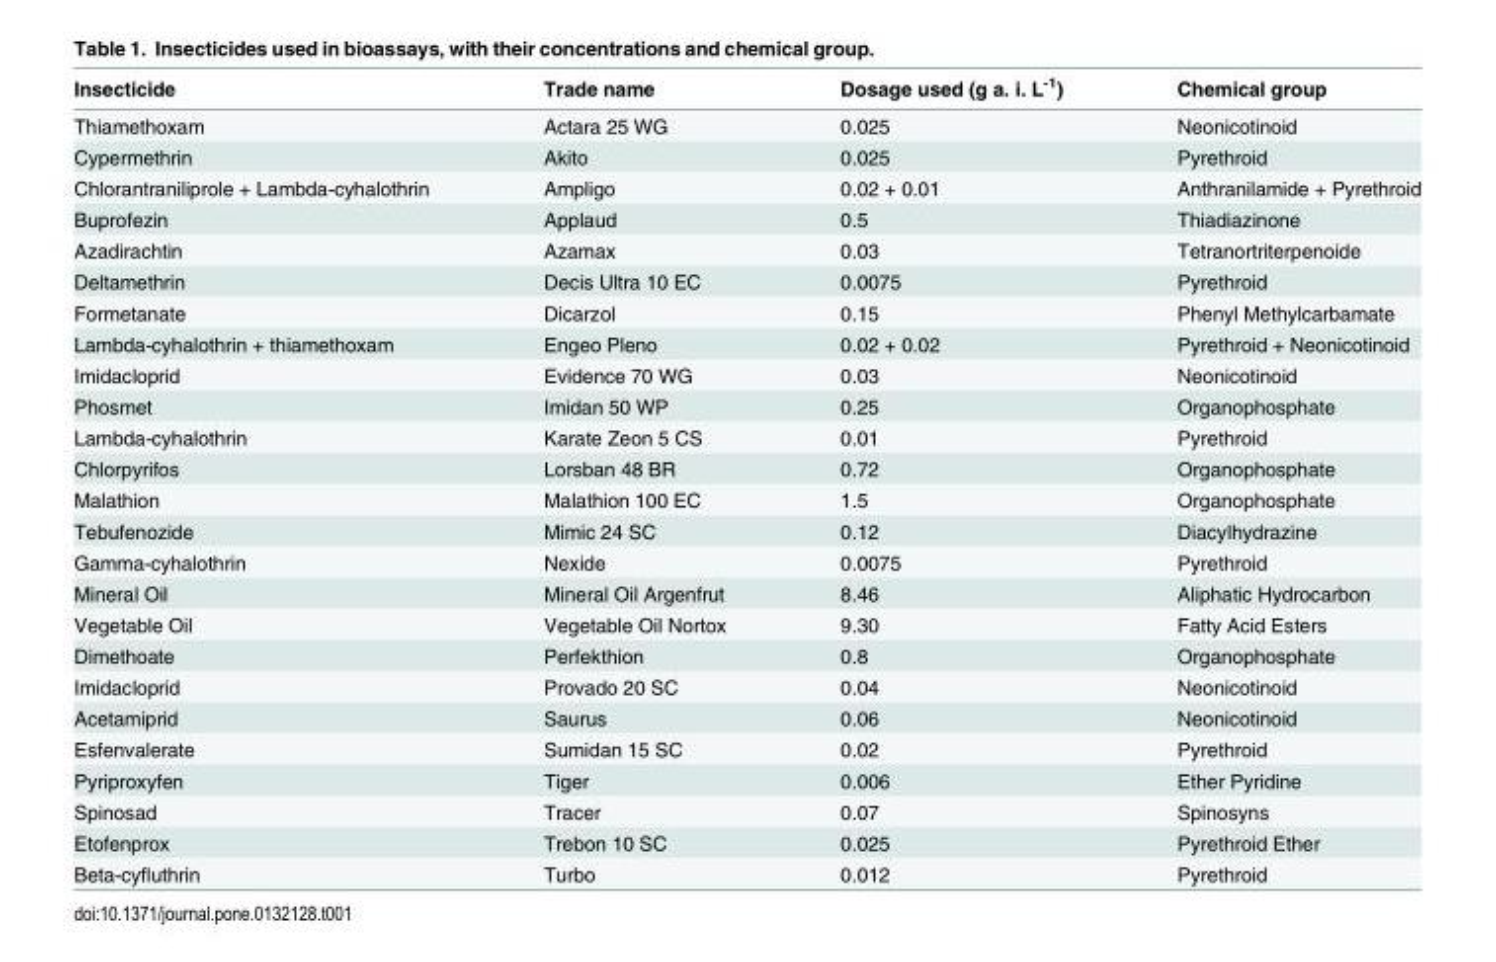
<table><thead><tr><td>Insecticide</td><td>Trade name</td><td>Dosage used (g a. i. L<sup>-1</sup>)</td><td>Chemical group</td></tr></thead><tbody><tr><td>Thiamethoxam</td><td>Actara 25 WG</td><td>0.025</td><td>Neonicotinoid</td></tr><tr><td>Cypermethrin</td><td>Akito</td><td>0.025</td><td>Pyrethroid</td></tr><tr><td>Chlorantraniliprole + Lambda-cyhalothrin</td><td>Ampligo</td><td>0.02 + 0.01</td><td>Anthranilamide + Pyrethroid</td></tr><tr><td>Buprofezin</td><td>Applaud</td><td>0.5</td><td>Thiadiazinone</td></tr><tr><td>Azadirachtin</td><td>Azamax</td><td>0.03</td><td>Tetranortriterpenoide</td></tr><tr><td>Deltamethrin</td><td>Decis Ultra 10 EC</td><td>0.0075</td><td>Pyrethroid</td></tr><tr><td>Formetanate</td><td>Dicarzol</td><td>0.15</td><td>Phenyl Methylcarbamate</td></tr><tr><td>Lambda-cyhalothrin + thiamethoxam</td><td>Engeo Pleno</td><td>0.02 + 0.02</td><td>Pyrethroid + Neonicotinoid</td></tr><tr><td>Imidacloprid</td><td>Evidence 70 WG</td><td>0.03</td><td>Neonicotinoid</td></tr><tr><td>Phosmet</td><td>Imidan 50 WP</td><td>0.25</td><td>Organophosphate</td></tr><tr><td>Lambda-cyhalothrin</td><td>Karate Zeon 5 CS</td><td>0.01</td><td>Pyrethroid</td></tr><tr><td>Chlorpyrifos</td><td>Lorsban 48 BR</td><td>0.72</td><td>Organophosphate</td></tr><tr><td>Malathion</td><td>Malathion 100 EC</td><td>1.5</td><td>Organophosphate</td></tr><tr><td>Tebufenozide</td><td>Mimic 24 SC</td><td>0.12</td><td>Diacylhydrazine</td></tr><tr><td>Gamma-cyhalothrin</td><td>Nexide</td><td>0.0075</td><td>Pyrethroid</td></tr><tr><td>Mineral Oil</td><td>Mineral Oil Argenfrut</td><td>8.46</td><td>Aliphatic Hydrocarbon</td></tr><tr><td>Vegetable Oil</td><td>Vegetable Oil Nortox</td><td>9.30</td><td>Fatty Acid Esters</td></tr><tr><td>Dimethoate</td><td>Perfekthion</td><td>0.8</td><td>Organophosphate</td></tr><tr><td>Imidacloprid</td><td>Provado 20 SC</td><td>0.04</td><td>Neonicotinoid</td></tr><tr><td>Acetamiprid</td><td>Saurus</td><td>0.06</td><td>Neonicotinoid</td></tr><tr><td>Esfenvalerate</td><td>Sumidan 15 SC</td><td>0.02</td><td>Pyrethroid</td></tr><tr><td>Pyriproxyfen</td><td>Tiger</td><td>0.006</td><td>Ether Pyridine</td></tr><tr><td>Spinosad</td><td>Tracer</td><td>0.07</td><td>Spinosyns</td></tr><tr><td>Etofenprox</td><td>Trebon 10 SC</td><td>0.025</td><td>Pyrethroid Ether</td></tr><tr><td>Beta-cyfluthrin</td><td>Turbo</td><td>0.012</td><td>Pyrethroid</td></tr></tbody></table>